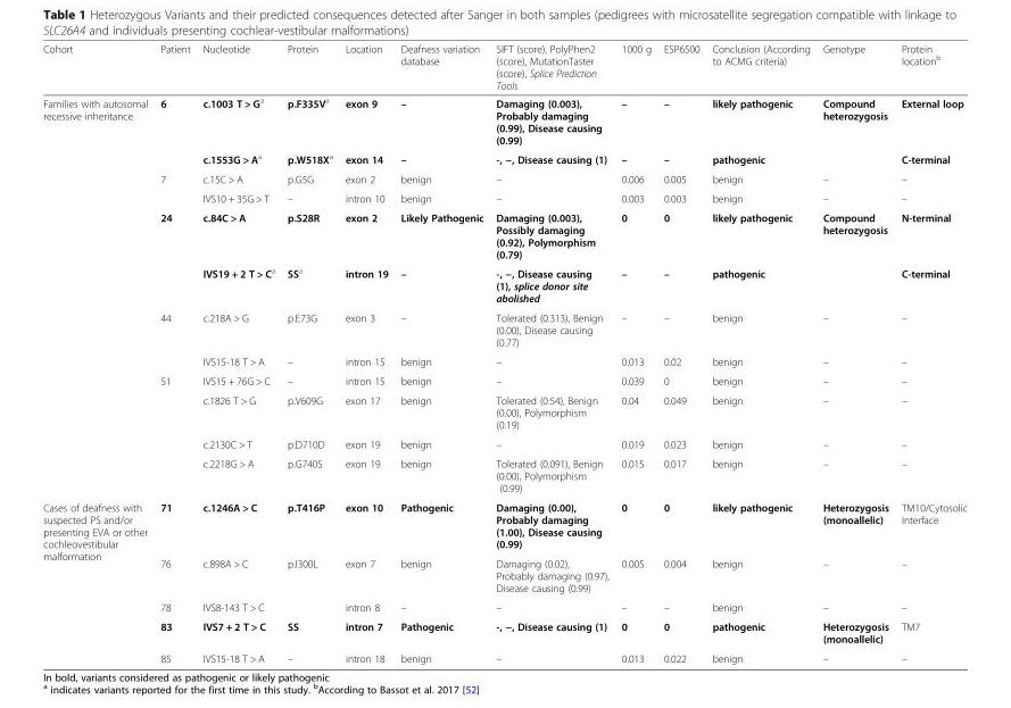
<table><thead><tr><td>Cohort</td><td>Patient</td><td>Nucleotide</td><td>Protein</td><td>Location</td><td>Deafness variation database</td><td>SIFT (score), PolyPhen2 (score), MutationTaster (score), Splice Prediction Tools</td><td>1000 g</td><td>ESP6500</td><td>Conclusion (According to ACMG criteria)</td><td>Genotype</td><td>Protein location<sup>b</sup></td></tr></thead><tbody><tr><td rowspan="12">Families with autosomal recessive inheritance</td><td rowspan="2">6</td><td>c.1003 T &gt; G<sup>a</sup></td><td>p.F335V<sup>a</sup></td><td>exon 9</td><td>–</td><td>Damaging (0.003), Probably damaging (0.99), Disease causing (0.99)</td><td>–</td><td>–</td><td>likely pathogenic</td><td rowspan="2">Compound heterozygosis</td><td>External loop</td></tr><tr><td>c.1553G &gt; A<sup>a</sup></td><td>p.W518X<sup>a</sup></td><td>exon 14</td><td>–</td><td>-, −, Disease causing (1)</td><td>–</td><td>–</td><td>pathogenic</td><td>C-terminal</td></tr><tr><td rowspan="2">7</td><td>c.15C &gt; A</td><td>p.G5G</td><td>exon 2</td><td>benign</td><td>–</td><td>0.006</td><td>0.005</td><td>benign</td><td>–</td><td>–</td></tr><tr><td>IVS10 + 35G &gt; T</td><td>–</td><td>intron 10</td><td>benign</td><td>–</td><td>0.003</td><td>0.003</td><td>benign</td><td>–</td><td>–</td></tr><tr><td rowspan="2">24</td><td>c.84C &gt; A</td><td>p.S28R</td><td>exon 2</td><td>Likely Pathogenic</td><td>Damaging (0.003), Possibly damaging (0.92), Polymorphism (0.79)</td><td>0</td><td>0</td><td>likely pathogenic</td><td rowspan="2">Compound heterozygosis</td><td>N-terminal</td></tr><tr><td>IVS19 + 2 T &gt; C<sup>a</sup></td><td>SS<sup>a</sup></td><td>intron 19</td><td>–</td><td>-, −, Disease causing (1), splice donor site abolished</td><td>–</td><td>–</td><td>pathogenic</td><td>C-terminal</td></tr><tr><td rowspan="2">44</td><td>c.218A &gt; G</td><td>p.E73G</td><td>exon 3</td><td>–</td><td>Tolerated (0.313), Benign (0.00), Disease causing (0.77)</td><td>–</td><td>–</td><td>benign</td><td>–</td><td>–</td></tr><tr><td>IVS15-18 T &gt; A</td><td>–</td><td>intron 15</td><td>benign</td><td>–</td><td>0.013</td><td>0.02</td><td>benign</td><td>–</td><td>–</td></tr><tr><td rowspan="4">51</td><td>IVS15 + 76G &gt; C</td><td>–</td><td>intron 15</td><td>benign</td><td>–</td><td>0.039</td><td>0</td><td>benign</td><td>–</td><td>–</td></tr><tr><td>c.1826 T &gt; G</td><td>p.V609G</td><td>exon 17</td><td>benign</td><td>Tolerated (0.54), Benign (0.00), Polymorphism (0.19)</td><td>0.04</td><td>0.049</td><td>benign</td><td>–</td><td>–</td></tr><tr><td>c.2130C &gt; T</td><td>p.D710D</td><td>exon 19</td><td>benign</td><td>–</td><td>0.019</td><td>0.023</td><td>benign</td><td>–</td><td>–</td></tr><tr><td>c.2218G &gt; A</td><td>p.G740S</td><td>exon 19</td><td>benign</td><td>Tolerated (0,091), Benign (0.00), Polymorphism (0.99)</td><td>0.015</td><td>0.017</td><td>benign</td><td>–</td><td>–</td></tr><tr><td rowspan="5">Cases of deafness with suspected PS and/or presenting EVA or other cochleovestibular malformation</td><td>71</td><td>c.1246A &gt; C</td><td>p.T416P</td><td>exon 10</td><td>Pathogenic</td><td>Damaging (0.00), Probably damaging (1.00), Disease causing (0.99)</td><td>0</td><td>0</td><td>likely pathogenic</td><td>Heterozygosis (monoallelic)</td><td>TM10/Cytosolic Interface</td></tr><tr><td>76</td><td>c.898A &gt; C</td><td>p.I300L</td><td>exon 7</td><td>benign</td><td>Damaging (0.02), Probably damaging (0.97), Disease causing (0.99)</td><td>0.005</td><td>0.004</td><td>benign</td><td>–</td><td>–</td></tr><tr><td>78</td><td>IVS8-143 T &gt; C</td><td></td><td>intron 8</td><td>–</td><td>–</td><td>–</td><td>–</td><td>benign</td><td>–</td><td>–</td></tr><tr><td>83</td><td>IVS7 + 2 T &gt; C</td><td>SS</td><td>intron 7</td><td>Pathogenic</td><td>-, −, Disease causing (1)</td><td>0</td><td>0</td><td>pathogenic</td><td>Heterozygosis (monoallelic)</td><td>TM7</td></tr><tr><td>85</td><td>IVS15-18 T &gt; A</td><td>–</td><td>intron 18</td><td>benign</td><td>–</td><td>0.013</td><td>0.022</td><td>benign</td><td>–</td><td>–</td></tr></tbody></table>